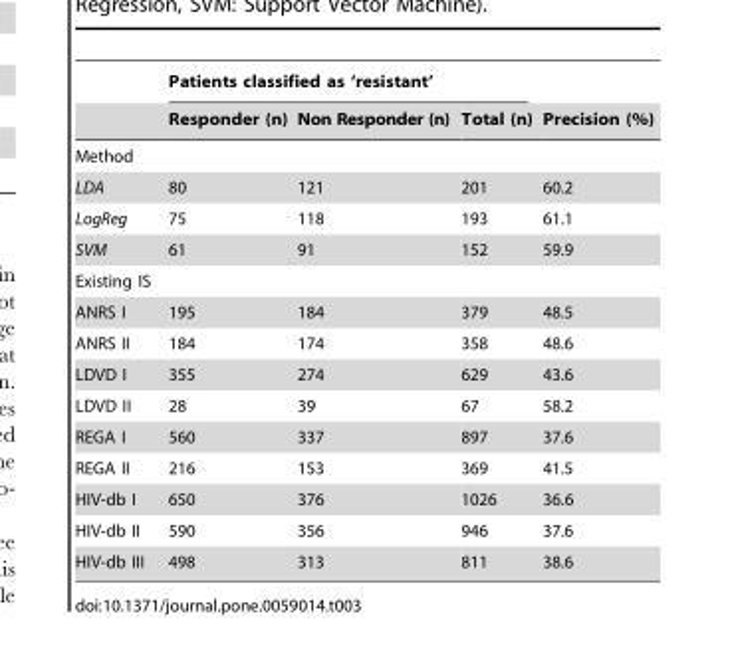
<table><thead><tr><td rowspan="2"></td><td colspan="3">Patients classified as ‘resistant’</td><td rowspan="2">Precision (%)</td></tr><tr><td>Responder (n)</td><td>Non Responder (n)</td><td>Total (n)</td></tr></thead><tbody><tr><td colspan="5">Method</td></tr><tr><td>LDA</td><td>80</td><td>121</td><td>201</td><td>60.2</td></tr><tr><td>LogReg</td><td>75</td><td>118</td><td>193</td><td>61.1</td></tr><tr><td>SVM</td><td>61</td><td>91</td><td>152</td><td>59.9</td></tr><tr><td colspan="5">Existing IS</td></tr><tr><td>ANRS I</td><td>195</td><td>184</td><td>379</td><td>48.5</td></tr><tr><td>ANRS II</td><td>184</td><td>174</td><td>358</td><td>48.6</td></tr><tr><td>LDVD I</td><td>355</td><td>274</td><td>629</td><td>43.6</td></tr><tr><td>LDVD II</td><td>28</td><td>39</td><td>67</td><td>58.2</td></tr><tr><td>REGA I</td><td>560</td><td>337</td><td>897</td><td>37.6</td></tr><tr><td>REGA II</td><td>216</td><td>153</td><td>369</td><td>41.5</td></tr><tr><td>HIV-db I</td><td>650</td><td>376</td><td>1026</td><td>36.6</td></tr><tr><td>HIV-db II</td><td>590</td><td>356</td><td>946</td><td>37.6</td></tr><tr><td>HIV-db III</td><td>498</td><td>313</td><td>811</td><td>38.6</td></tr></tbody></table>